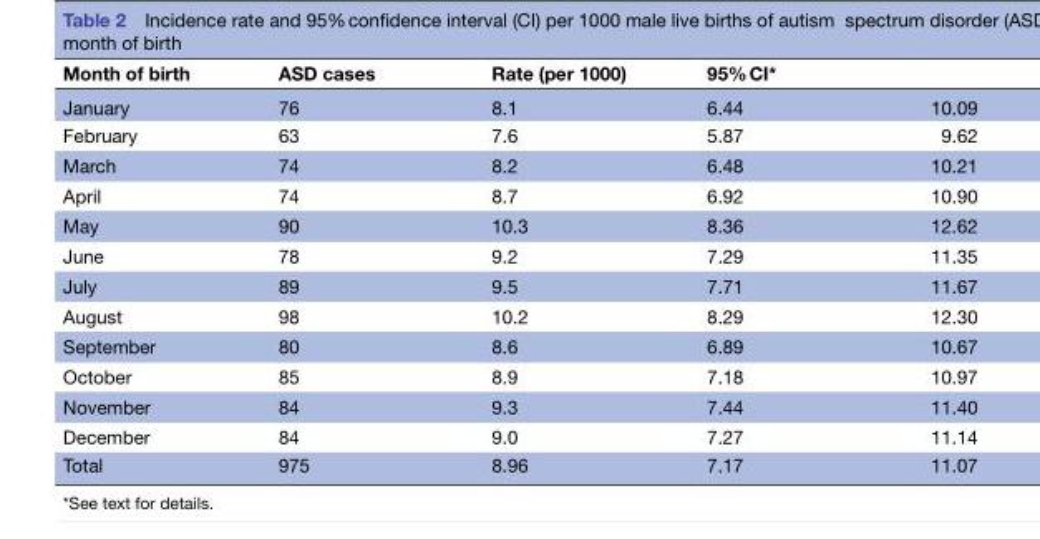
<table><thead><tr><td rowspan="2">Month of birth January</td><td rowspan="2">ASD cases 76</td><td rowspan="2">Rate (per 1000) 8.1</td><td colspan="2">95% CI*</td></tr><tr><td>6.44</td><td>10.09</td></tr></thead><tbody><tr><td>February</td><td>63</td><td>7.6</td><td>5.87</td><td>9.62</td></tr><tr><td>March</td><td>74</td><td>8.2</td><td>6.48</td><td>10.21</td></tr><tr><td>April</td><td>74</td><td>8.7</td><td>6.92</td><td>10.90</td></tr><tr><td>May</td><td>90</td><td>10.3</td><td>8.36</td><td>12.62</td></tr><tr><td>June</td><td>78</td><td>9.2</td><td>7.29</td><td>11.35</td></tr><tr><td>July</td><td>89</td><td>9.5</td><td>7.71</td><td>11.67</td></tr><tr><td>August</td><td>98</td><td>10.2</td><td>8.29</td><td>12.30</td></tr><tr><td>September</td><td>80</td><td>8.6</td><td>6.89</td><td>10.67</td></tr><tr><td>October</td><td>85</td><td>8.9</td><td>7.18</td><td>10.97</td></tr><tr><td>November</td><td>84</td><td>9.3</td><td>7.44</td><td>11.40</td></tr><tr><td>December</td><td>84</td><td>9.0</td><td>7.27</td><td>11.14</td></tr><tr><td>Total</td><td>975</td><td>8.96</td><td>7.17</td><td>11.07</td></tr></tbody></table>